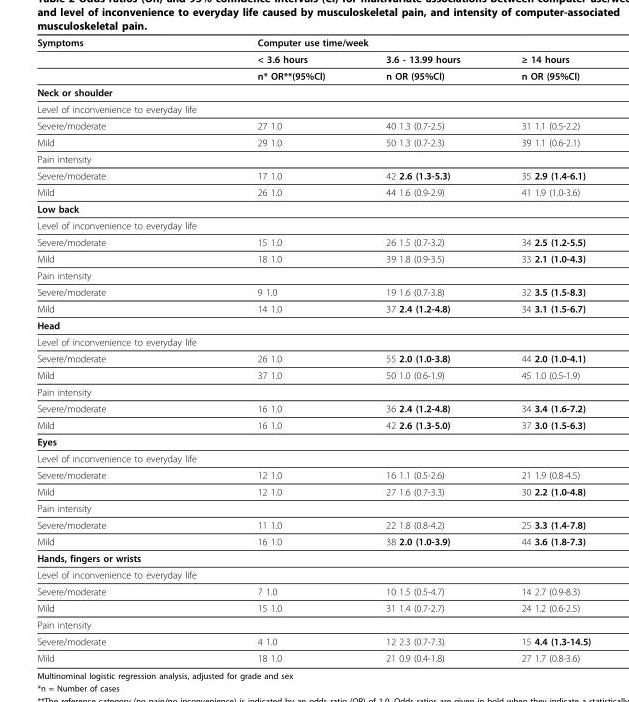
<table><thead><tr><td rowspan="2">Symptoms</td><td colspan="2">Computer use time/week</td><td rowspan="2">≥ 14 hours</td></tr><tr><td>&lt; 3.6 hours</td><td>3.6 - 13.99 hours</td></tr></thead><tbody><tr><td></td><td>n* OR**(95%Cl)</td><td>n OR (95%Cl)</td><td>n OR (95%Cl)</td></tr><tr><td colspan="4">Neck or shoulder</td></tr><tr><td colspan="4">Level of inconvenience to everyday life</td></tr><tr><td>Severe/moderate</td><td>27 1.0</td><td>40 1.3 (0.7-2.5)</td><td>31 1.1 (0.5-2.2)</td></tr><tr><td>Mild</td><td>29 1.0</td><td>50 1.3 (0.7-2.3)</td><td>39 1.1 (0.6-2.1)</td></tr><tr><td colspan="4">Pain intensity</td></tr><tr><td>Severe/moderate</td><td>17 1.0</td><td>42 2.6 (1.3-5.3)</td><td>35 2.9 (1.4-6.1)</td></tr><tr><td>Mild</td><td>26 1.0</td><td>44 1.6 (0.9-2.9)</td><td>41 1.9 (1.0-3.6)</td></tr><tr><td colspan="4">Low back</td></tr><tr><td colspan="4">Level of inconvenience to everyday life</td></tr><tr><td>Severe/moderate</td><td>15 1.0</td><td>26 1.5 (0.7-3.2)</td><td>34 2.5 (1.2-5.5)</td></tr><tr><td>Mild</td><td>18 1.0</td><td>39 1.8 (0.9-3.5)</td><td>33 2.1 (1.0-4.3)</td></tr><tr><td colspan="4">Pain intensity</td></tr><tr><td>Severe/moderate</td><td>9 1.0</td><td>19 1.6 (0.7-3.8)</td><td>32 3.5 (1.5-8.3)</td></tr><tr><td>Mild</td><td>14 1.0</td><td>37 2.4 (1.2-4.8)</td><td>34 3.1 (1.5-6.7)</td></tr><tr><td colspan="4">Head</td></tr><tr><td colspan="4">Level of inconvenience to everyday life</td></tr><tr><td>Severe/moderate</td><td>26 1.0</td><td>55 2.0 (1.0-3.8)</td><td>44 2.0 (1.0-4.1)</td></tr><tr><td>Mild</td><td>37 1.0</td><td>50 1.0 (0.6-1.9)</td><td>45 1.0 (0.5-1.9)</td></tr><tr><td colspan="4">Pain intensity</td></tr><tr><td>Severe/moderate</td><td>16 1.0</td><td>36 2.4 (1.2-4.8)</td><td>34 3.4 (1.6-7.2)</td></tr><tr><td>Mild</td><td>16 1.0</td><td>42 2.6 (1.3-5.0)</td><td>37 3.0 (1.5-6.3)</td></tr><tr><td colspan="4">Eyes</td></tr><tr><td colspan="4">Level of inconvenience to everyday life</td></tr><tr><td>Severe/moderate</td><td>12 1.0</td><td>16 1.1 (0.5-2.6)</td><td>21 1.9 (0.8-4.5)</td></tr><tr><td>Mild</td><td>12 1.0</td><td>27 1.6 (0.7-3.3)</td><td>30 2.2 (1.0-4.8)</td></tr><tr><td colspan="4">Pain intensity</td></tr><tr><td>Severe/moderate</td><td>11 1.0</td><td>22 1.8 (0.8-4.2)</td><td>25 3.3 (1.4-7.8)</td></tr><tr><td>Mild</td><td>16 1.0</td><td>38 2.0 (1.0-3.9)</td><td>44 3.6 (1.8-7.3)</td></tr><tr><td colspan="4">Hands, fingers or wrists</td></tr><tr><td colspan="4">Level of inconvenience to everyday life</td></tr><tr><td>Severe/moderate</td><td>7 1.0</td><td>10 1.5 (0.5-4.7)</td><td>14 2.7 (0.9-8.3)</td></tr><tr><td>Mild</td><td>15 1.0</td><td>31 1.4 (0.7-2.7)</td><td>24 1.2 (0.6-2.5)</td></tr><tr><td colspan="4">Pain intensity</td></tr><tr><td>Severe/moderate</td><td>4 1.0</td><td>12 2.3 (0.7-7.3)</td><td>15 4.4 (1.3-14.5)</td></tr><tr><td>Mild</td><td>18 1.0</td><td>21 0.9 (0.4-1.8)</td><td>27 1.7 (0.8-3.6)</td></tr></tbody></table>